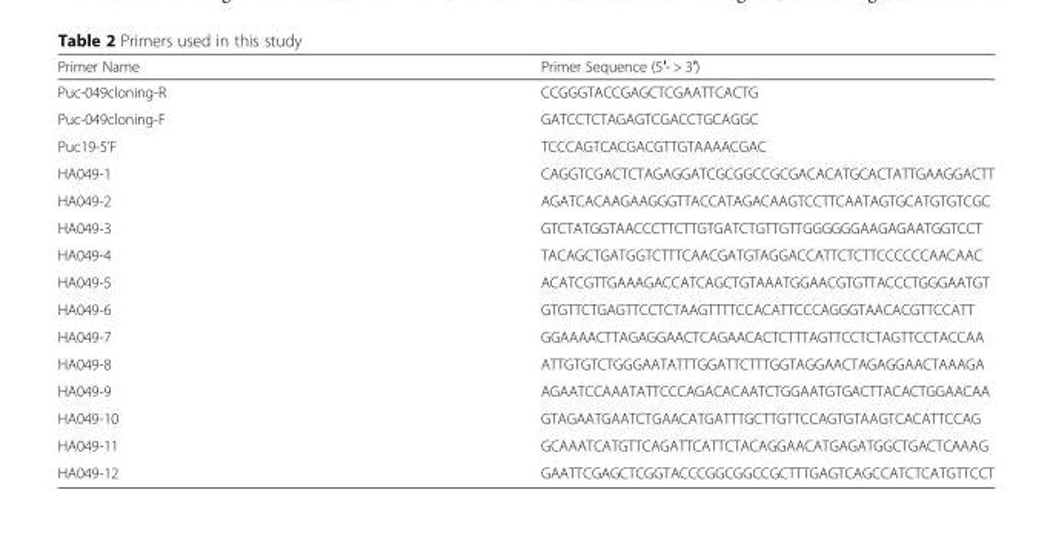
<table><thead><tr><td>Primer Name</td><td>Primer Sequence (5′- &gt; 3′)</td></tr></thead><tbody><tr><td>Puc-049cloning-R</td><td>CCGGGTACCGAGCTCGAATTCACTG</td></tr><tr><td>Puc-049cloning-F</td><td>GATCCTCTAGAGTCGACCTGCAGGC</td></tr><tr><td>Puc19-5’F</td><td>TCCCAGTCACGACGTTGTAAAACGAC</td></tr><tr><td>HA049-1</td><td>CAGGTCGACTCTAGAGGATCGCGGCCGCGACACATGCACTATTGAAGGACTT</td></tr><tr><td>HA049-2</td><td>AGATCACAAGAAGGGTTACCATAGACAAGTCCTTCAATAGTGCATGTGTCGC</td></tr><tr><td>HA049-3</td><td>GTCTATGGTAACCCTTCTTGTGATCTGTTGTTGGGGGGAAGAGAATGGTCCT</td></tr><tr><td>HA049-4</td><td>TACAGCTGATGGTCTTTCAACGATGTAGGACCATTCTCTTCCCCCCAACAAC</td></tr><tr><td>HA049-5</td><td>ACATCGTTGAAAGACCATCAGCTGTAAATGGAACGTGTTACCCTGGGAATGT</td></tr><tr><td>HA049-6</td><td>GTGTTCTGAGTTCCTCTAAGTTTTCCACATTCCCAGGGTAACACGTTCCATT</td></tr><tr><td>HA049-7</td><td>GGAAAACTTAGAGGAACTCAGAACACTCTTTAGTTCCTCTAGTTCCTACCAA</td></tr><tr><td>HA049-8</td><td>ATTGTGTCTGGGAATATTTGGATTCTTTGGTAGGAACTAGAGGAACTAAAGA</td></tr><tr><td>HA049-9</td><td>AGAATCCAAATATTCCCAGACACAATCTGGAATGTGACTTACACTGGAACAA</td></tr><tr><td>HA049-10</td><td>GTAGAATGAATCTGAACATGATTTGCTTGTTCCAGTGTAAGTCACATTCCAG</td></tr><tr><td>HA049-11</td><td>GCAAATCATGTTCAGATTCATTCTACAGGAACATGAGATGGCTGACTCAAAG</td></tr><tr><td>HA049-12</td><td>GAATTCGAGCTCGGTACCCGGCGGCCGCTTTGAGTCAGCCATCTCATGTTCCT</td></tr></tbody></table>